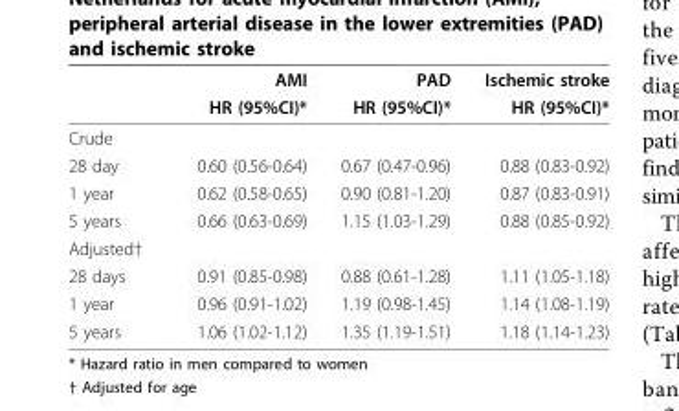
<table><thead><tr><td rowspan="2"></td><td rowspan="2">AMI HR (95%CI)*</td><td rowspan="2">PAD HR (95%CI)*</td><td rowspan="2">Ischemic stroke HR (95%CI)*</td></tr><tr></tr></thead><tbody><tr><td colspan="4">Crude</td></tr><tr><td>28 day</td><td>0.60 (0.56-0.64)</td><td>0.67 (0.47-0.96)</td><td>0.88 (0.83-0.92)</td></tr><tr><td>1 year</td><td>0.62 (0.58-0.65)</td><td>0.90 (0.81-1.20)</td><td>0.87 (0.83-0.91)</td></tr><tr><td>5 years</td><td>0.66 (0.63-0.69)</td><td>1.15 (1.03-1.29)</td><td>0.88 (0.85-0.92)</td></tr><tr><td colspan="4">Adjusted†</td></tr><tr><td>28 days</td><td>0.91 (0.85-0.98)</td><td>0.88 (0.61-1.28)</td><td>1.11 (1.05-1.18)</td></tr><tr><td>1 year</td><td>0.96 (0.91-1.02)</td><td>1.19 (0.98-1.45)</td><td>1.14 (1.08-1.19)</td></tr><tr><td>5 years</td><td>1.06 (1.02-1.12)</td><td>1.35 (1.19-1.51)</td><td>1.18 (1.14-1.23)</td></tr></tbody></table>